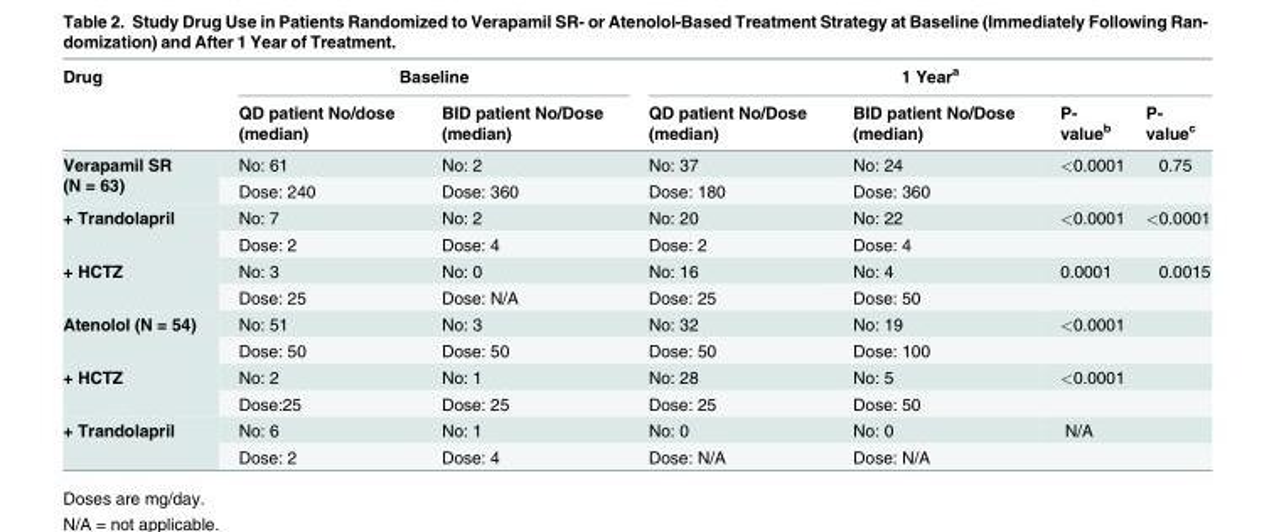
<table><thead><tr><td rowspan="2">Drug</td><td colspan="2">Baseline</td><td colspan="4">1 Year<sup>a</sup></td></tr><tr><td>QD patient No/dose (median)</td><td>BID patient No/Dose (median)</td><td>QD patient No/Dose (median)</td><td>BID patient No/Dose (median)</td><td>P- value<sup>b</sup></td><td>P- value<sup>c</sup></td></tr></thead><tbody><tr><td rowspan="2">Verapamil SR (N = 63)</td><td>No: 61</td><td>No: 2</td><td>No: 37</td><td>No: 24</td><td>&lt;0.0001</td><td>0.75</td></tr><tr><td>Dose: 240</td><td>Dose: 360</td><td>Dose: 180</td><td>Dose: 360</td><td></td><td></td></tr><tr><td rowspan="2">+ Trandolapril</td><td>No: 7</td><td>No: 2</td><td>No: 20</td><td>No: 22</td><td>&lt;0.0001</td><td>&lt;0.0001</td></tr><tr><td>Dose: 2</td><td>Dose: 4</td><td>Dose: 2</td><td>Dose: 4</td><td></td><td></td></tr><tr><td rowspan="2">+ HCTZ</td><td>No: 3</td><td>No: 0</td><td>No: 16</td><td>No: 4</td><td>0.0001</td><td>0.0015</td></tr><tr><td>Dose: 25</td><td>Dose: N/A</td><td>Dose: 25</td><td>Dose: 50</td><td></td><td></td></tr><tr><td rowspan="2">Atenolol (N = 54)</td><td>No: 51</td><td>No: 3</td><td>No: 32</td><td>No: 19</td><td>&lt;0.0001</td><td></td></tr><tr><td>Dose: 50</td><td>Dose: 50</td><td>Dose: 50</td><td>Dose: 100</td><td></td><td></td></tr><tr><td rowspan="2">+ HCTZ</td><td>No: 2</td><td>No: 1</td><td>No: 28</td><td>No: 5</td><td>&lt;0.0001</td><td></td></tr><tr><td>Dose:25</td><td>Dose: 25</td><td>Dose: 25</td><td>Dose: 50</td><td></td><td></td></tr><tr><td rowspan="2">+ Trandolapril</td><td>No: 6</td><td>No: 1</td><td>No: 0</td><td>No: 0</td><td>N/A</td><td></td></tr><tr><td>Dose: 2</td><td>Dose: 4</td><td>Dose: N/A</td><td>Dose: N/A</td><td></td><td></td></tr></tbody></table>